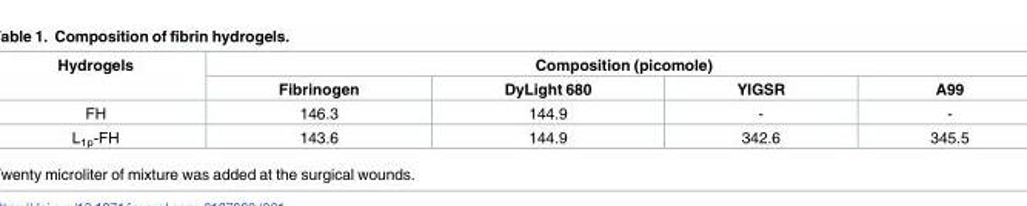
<table><thead><tr><td rowspan="2">Hydrogels</td><td colspan="4">Composition (picomole)</td></tr><tr><td>Fibrinogen</td><td>DyLight 680</td><td>YIGSR</td><td>A99</td></tr></thead><tbody><tr><td>FH</td><td>146.3</td><td>144.9</td><td>-</td><td>-</td></tr><tr><td>L<sub>1p</sub>-FH</td><td>143.6</td><td>144.9</td><td>342.6</td><td>345.5</td></tr></tbody></table>